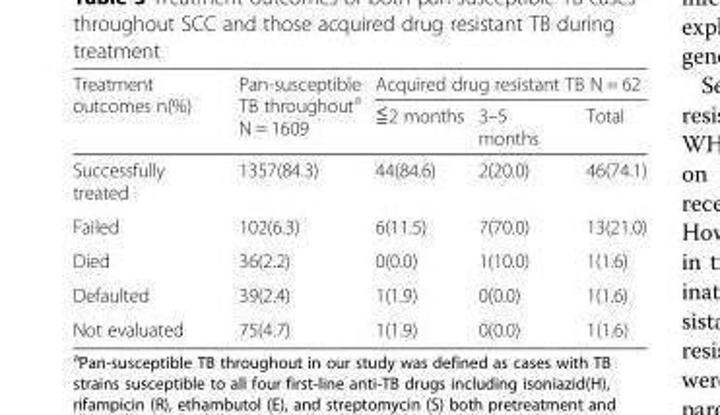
<table><thead><tr><td rowspan="2">Treatment outcomes n(%)</td><td rowspan="2">Pan-susceptible TB throughout<sup>a</sup> N = 1609</td><td colspan="3">Acquired drug resistant TB N = 62</td></tr><tr><td>≦2 months</td><td>3–5 months</td><td>Total</td></tr></thead><tbody><tr><td>Successfully treated</td><td>1357(84.3)</td><td>44(84.6)</td><td>2(20.0)</td><td>46(74.1)</td></tr><tr><td>Failed</td><td>102(6.3)</td><td>6(11.5)</td><td>7(70.0)</td><td>13(21.0)</td></tr><tr><td>Died</td><td>36(2.2)</td><td>0(0.0)</td><td>1(10.0)</td><td>1(1.6)</td></tr><tr><td>Defaulted</td><td>39(2.4)</td><td>1(1.9)</td><td>0(0.0)</td><td>1(1.6)</td></tr><tr><td>Not evaluated</td><td>75(4.7)</td><td>1(1.9)</td><td>0(0.0)</td><td>1(1.6)</td></tr></tbody></table>